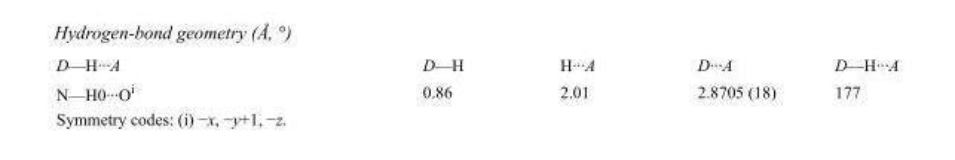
<table><tbody><tr><td>D—H···A</td><td>D—H</td><td>H···A</td><td>D···A</td><td>D—H···A</td></tr><tr><td>N—H0···O<sup>i</sup></td><td>0.86</td><td>2.01</td><td>2.8705 (18)</td><td>177</td></tr></tbody></table>